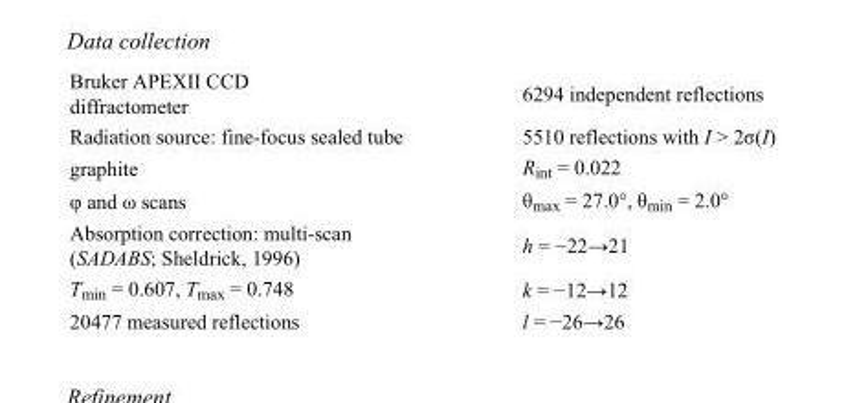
<table><tbody><tr><td>Bruker APEXII CCD diffractometer</td><td>6294 independent reflections</td></tr><tr><td>Radiation source: fine-focus sealed tube</td><td>5510 reflections with I &gt; 2σ(I)</td></tr><tr><td>graphite</td><td>R<sub>int</sub> = 0.022</td></tr><tr><td>φ and ω scans</td><td>θ<sub>max</sub> = 27.0°, θ<sub>min</sub> = 2.0°</td></tr><tr><td>Absorption correction: multi-scan (SADABS; Sheldrick, 1996)</td><td>h = −22→21</td></tr><tr><td>T<sub>min</sub> = 0.607, T<sub>max</sub> = 0.748</td><td>k = −12→12</td></tr><tr><td>20477 measured reflections</td><td>l = −26→26</td></tr></tbody></table>